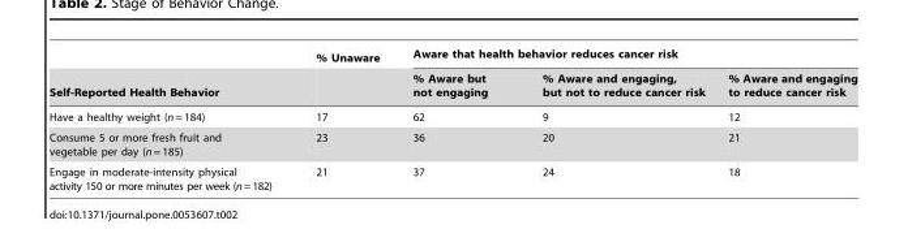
<table><thead><tr><td rowspan="2">Self-Reported Health Behavior</td><td rowspan="2">% Unaware</td><td colspan="3">Aware that health behavior reduces cancer risk</td></tr><tr><td>% Aware but not engaging</td><td>% Aware and engaging, but not to reduce cancer risk</td><td>% Aware and engaging to reduce cancer risk</td></tr></thead><tbody><tr><td>Have a healthy weight (n = 184)</td><td>17</td><td>62</td><td>9</td><td>12</td></tr><tr><td>Consume 5 or more fresh fruit and vegetable per day (n = 185)</td><td>23</td><td>36</td><td>20</td><td>21</td></tr><tr><td>Engage in moderate-intensity physical activity 150 or more minutes per week (n=182)</td><td>21</td><td>37</td><td>24</td><td>18</td></tr></tbody></table>